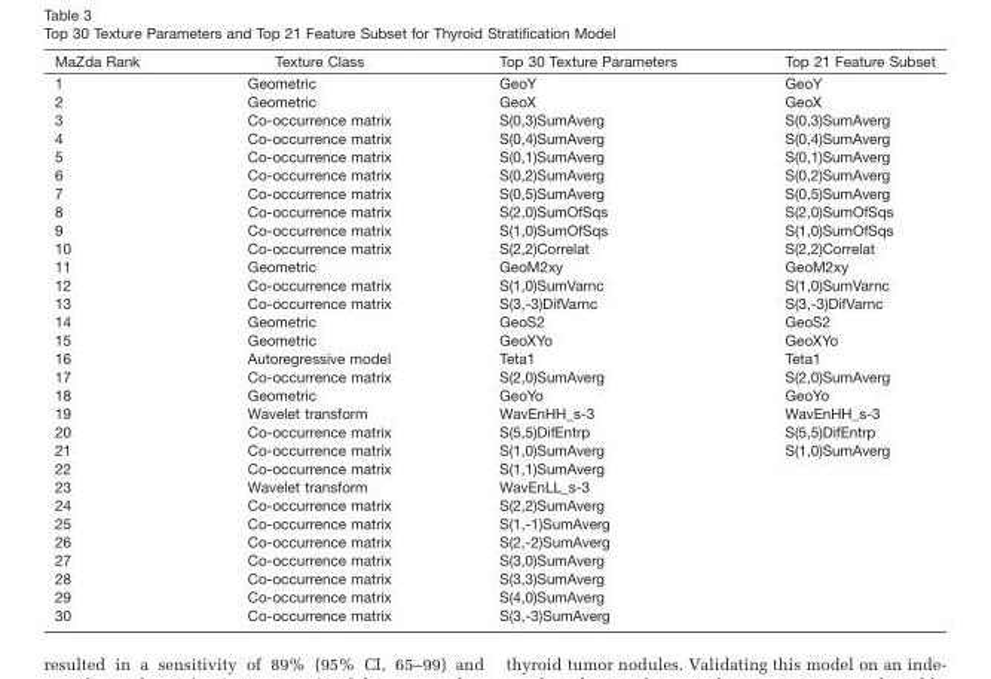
<table><thead><tr><td>MaZda Rank</td><td>Texture Class</td><td>Top 30 Texture Parameters</td><td>Top 21 Feature Subset</td></tr></thead><tbody><tr><td>1</td><td>Geometric</td><td>GeoY</td><td>GeoY</td></tr><tr><td>2</td><td>Geometric</td><td>GeoX</td><td>GeoX</td></tr><tr><td>3</td><td>Co-occurrence matrix</td><td>S(0,3)SumAverg</td><td>S(0,3)SumAverg</td></tr><tr><td>4</td><td>Co-occurrence matrix</td><td>S(0,4)SumAverg</td><td>S(0,4)SumAverg</td></tr><tr><td>5</td><td>Co-occurrence matrix</td><td>S(0,1)SumAverg</td><td>S(0,1)SumAverg</td></tr><tr><td>6</td><td>Co-occurrence matrix</td><td>S(0,2)SumAverg</td><td>S(0,2)SumAverg</td></tr><tr><td>7</td><td>Co-occurrence matrix</td><td>S(0,5)SumAverg</td><td>S(0,5)SumAverg</td></tr><tr><td>8</td><td>Co-occurrence matrix</td><td>S(2,0)SumOfSqs</td><td>S(2,0)SumOfSqs</td></tr><tr><td>9</td><td>Co-occurrence matrix</td><td>S(1,0)SumOfSqs</td><td>S(1,0)SumOfSqs</td></tr><tr><td>10</td><td>Co-occurrence matrix</td><td>S(2,2)Correlat</td><td>S(2,2)Correlat</td></tr><tr><td>11</td><td>Geometric</td><td>GeoM2xy</td><td>GeoM2xy</td></tr><tr><td>12</td><td>Co-occurrence matrix</td><td>S(1,0)SumVarnc</td><td>S(1,0)SumVarnc</td></tr><tr><td>13</td><td>Co-occurrence matrix</td><td>S(3,-3)DifVarnc</td><td>S(3,-3)DifVarnc</td></tr><tr><td>14</td><td>Geometric</td><td>GeoS2</td><td>GeoS2</td></tr><tr><td>15</td><td>Geometric</td><td>GeoXYo</td><td>GeoXYo</td></tr><tr><td>16</td><td>Autoregressive model</td><td>Teta1</td><td>Teta1</td></tr><tr><td>17</td><td>Co-occurrence matrix</td><td>S(2,0)SumAverg</td><td>S(2,0)SumAverg</td></tr><tr><td>18</td><td>Geometric</td><td>GeoYo</td><td>GeoYo</td></tr><tr><td>19</td><td>Wavelet transform</td><td>WavEnHH_s-3</td><td>WavEnHH_s-3</td></tr><tr><td>20</td><td>Co-occurrence matrix</td><td>S(5,5)DifEntrp</td><td>S(5,5)DifEntrp</td></tr><tr><td>21</td><td>Co-occurrence matrix</td><td>S(1,0)SumAverg</td><td>S(1,0)SumAverg</td></tr><tr><td>22</td><td>Co-occurrence matrix</td><td>S(1,1)SumAverg</td><td></td></tr><tr><td>23</td><td>Wavelet transform</td><td>WavEnLL_s-3</td><td></td></tr><tr><td>24</td><td>Co-occurrence matrix</td><td>S(2,2)SumAverg</td><td></td></tr><tr><td>25</td><td>Co-occurrence matrix</td><td>S(1,-1)SumAverg</td><td></td></tr><tr><td>26</td><td>Co-occurrence matrix</td><td>S(2,-2)SumAverg</td><td></td></tr><tr><td>27</td><td>Co-occurrence matrix</td><td>S(3,0)SumAverg</td><td></td></tr><tr><td>28</td><td>Co-occurrence matrix</td><td>S(3,3)SumAverg</td><td></td></tr><tr><td>29</td><td>Co-occurrence matrix</td><td>S(4,0)SumAverg</td><td></td></tr><tr><td>30</td><td>Co-occurrence matrix</td><td>S(3,-3)SumAverg</td><td></td></tr></tbody></table>